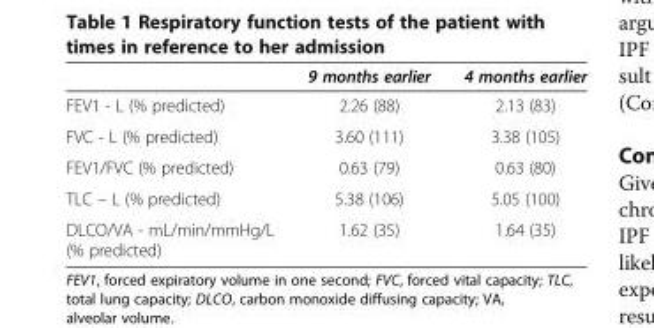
<table><thead><tr><td></td><td>9 months earlier</td><td>4 months earlier</td></tr></thead><tbody><tr><td>FEV1 - L (% predicted)</td><td>2.26 (88)</td><td>2.13 (83)</td></tr><tr><td>FVC - L (% predicted)</td><td>3.60 (111)</td><td>3.38 (105)</td></tr><tr><td>FEV1/FVC (% predicted)</td><td>0.63 (79)</td><td>0.63 (80)</td></tr><tr><td>TLC – L (% predicted)</td><td>5.38 (106)</td><td>5.05 (100)</td></tr><tr><td>DLCO/VA - mL/min/mmHg/L (% predicted)</td><td>1.62 (35)</td><td>1.64 (35)</td></tr></tbody></table>